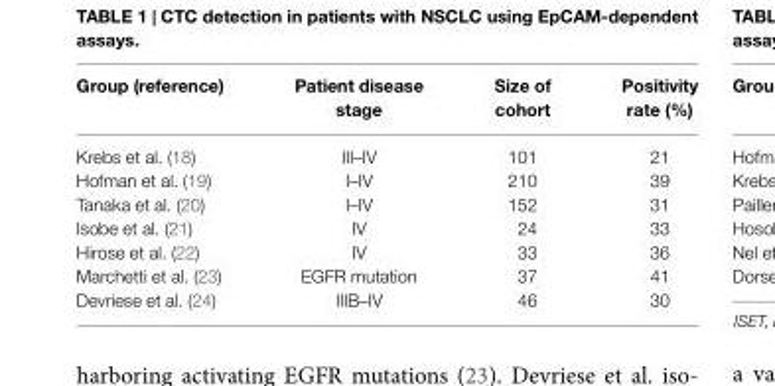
<table><thead><tr><td>Group (reference)</td><td>Patient disease stage</td><td>Size of cohort</td><td>Positivity rate (%)</td></tr></thead><tbody><tr><td>Krebs et al. (18)</td><td>III–IV</td><td>101</td><td>21</td></tr><tr><td>Hofman et al. (19)</td><td>I–IV</td><td>210</td><td>39</td></tr><tr><td>Tanaka et al. (20)</td><td>I–IV</td><td>152</td><td>31</td></tr><tr><td>Isobe et al. (21)</td><td>IV</td><td>24</td><td>33</td></tr><tr><td>Hirose et al. (22)</td><td>IV</td><td>33</td><td>36</td></tr><tr><td>Marchetti et al. (23)</td><td>EGFR mutation</td><td>37</td><td>41</td></tr><tr><td>Devriese et al. (24)</td><td>IIIB–IV</td><td>46</td><td>30</td></tr></tbody></table>